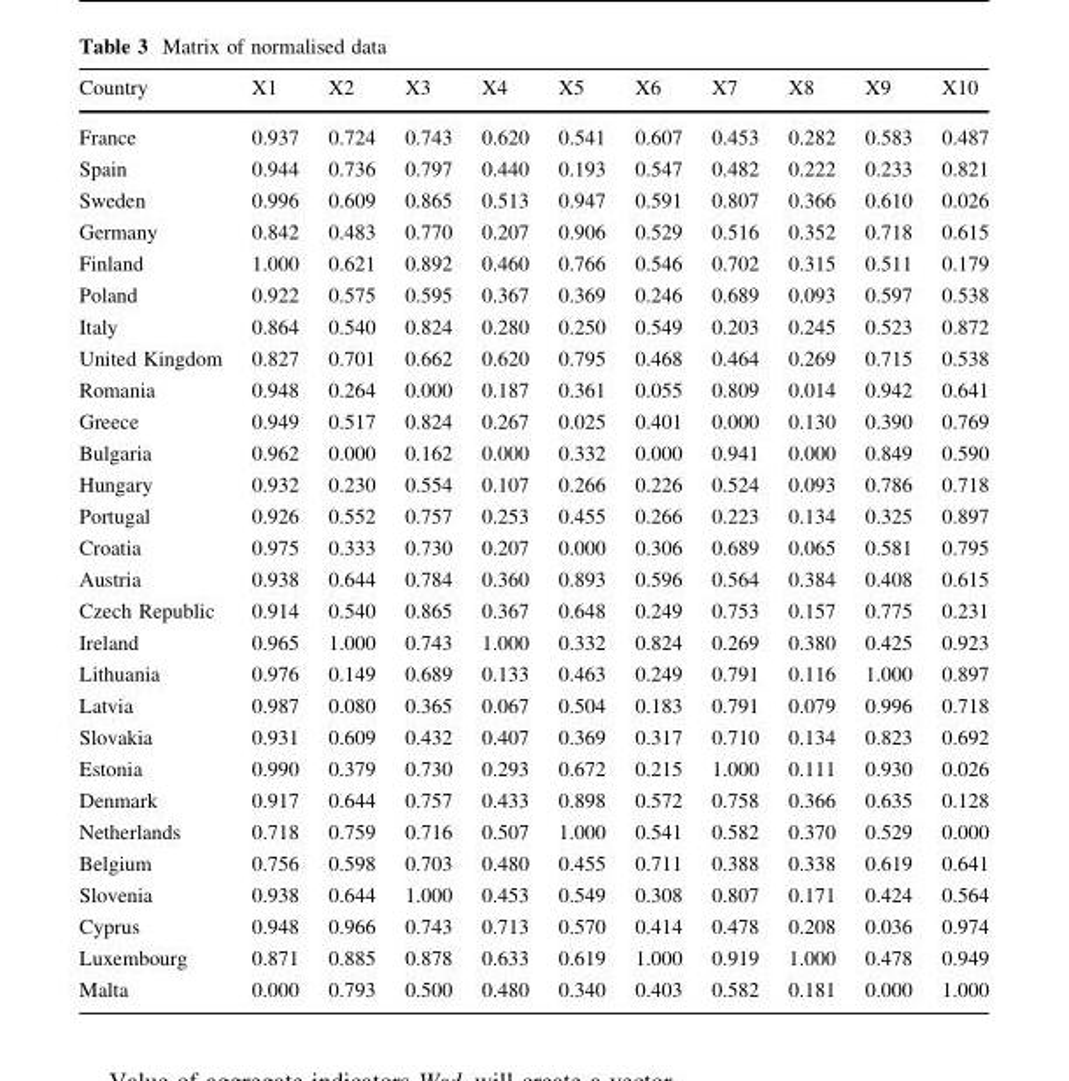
<table><thead><tr><td>Country</td><td>X1</td><td>X2</td><td>X3</td><td>X4</td><td>X5</td><td>X6</td><td>X7</td><td>X8</td><td>X9</td><td>X10</td></tr></thead><tbody><tr><td>France</td><td>0.937</td><td>0.724</td><td>0.743</td><td>0.620</td><td>0.541</td><td>0.607</td><td>0.453</td><td>0.282</td><td>0.583</td><td>0.487</td></tr><tr><td>Spain</td><td>0.944</td><td>0.736</td><td>0.797</td><td>0.440</td><td>0.193</td><td>0.547</td><td>0.482</td><td>0.222</td><td>0.233</td><td>0.821</td></tr><tr><td>Sweden</td><td>0.996</td><td>0.609</td><td>0.865</td><td>0.513</td><td>0.947</td><td>0.591</td><td>0.807</td><td>0.366</td><td>0.610</td><td>0.026</td></tr><tr><td>Germany</td><td>0.842</td><td>0.483</td><td>0.770</td><td>0.207</td><td>0.906</td><td>0.529</td><td>0.516</td><td>0.352</td><td>0.718</td><td>0.615</td></tr><tr><td>Finland</td><td>1.000</td><td>0.621</td><td>0.892</td><td>0.460</td><td>0.766</td><td>0.546</td><td>0.702</td><td>0.315</td><td>0.511</td><td>0.179</td></tr><tr><td>Poland</td><td>0.922</td><td>0.575</td><td>0.595</td><td>0.367</td><td>0.369</td><td>0.246</td><td>0.689</td><td>0.093</td><td>0.597</td><td>0.538</td></tr><tr><td>Italy</td><td>0.864</td><td>0.540</td><td>0.824</td><td>0.280</td><td>0.250</td><td>0.549</td><td>0.203</td><td>0.245</td><td>0.523</td><td>0.872</td></tr><tr><td>United Kingdom</td><td>0.827</td><td>0.701</td><td>0.662</td><td>0.620</td><td>0.795</td><td>0.468</td><td>0.464</td><td>0.269</td><td>0.715</td><td>0.538</td></tr><tr><td>Romania</td><td>0.948</td><td>0.264</td><td>0.000</td><td>0.187</td><td>0.361</td><td>0.055</td><td>0.809</td><td>0.014</td><td>0.942</td><td>0.641</td></tr><tr><td>Greece</td><td>0.949</td><td>0.517</td><td>0.824</td><td>0.267</td><td>0.025</td><td>0.401</td><td>0.000</td><td>0.130</td><td>0.390</td><td>0.769</td></tr><tr><td>Bulgaria</td><td>0.962</td><td>0.000</td><td>0.162</td><td>0.000</td><td>0.332</td><td>0.000</td><td>0.941</td><td>0.000</td><td>0.849</td><td>0.590</td></tr><tr><td>Hungary</td><td>0.932</td><td>0.230</td><td>0.554</td><td>0.107</td><td>0.266</td><td>0.226</td><td>0.524</td><td>0.093</td><td>0.786</td><td>0.718</td></tr><tr><td>Portugal</td><td>0.926</td><td>0.552</td><td>0.757</td><td>0.253</td><td>0.455</td><td>0.266</td><td>0.223</td><td>0.134</td><td>0.325</td><td>0.897</td></tr><tr><td>Croatia</td><td>0.975</td><td>0.333</td><td>0.730</td><td>0.207</td><td>0.000</td><td>0.306</td><td>0.689</td><td>0.065</td><td>0.581</td><td>0.795</td></tr><tr><td>Austria</td><td>0.938</td><td>0.644</td><td>0.784</td><td>0.360</td><td>0.893</td><td>0.596</td><td>0.564</td><td>0.384</td><td>0.408</td><td>0.615</td></tr><tr><td>Czech Republic</td><td>0.914</td><td>0.540</td><td>0.865</td><td>0.367</td><td>0.648</td><td>0.249</td><td>0.753</td><td>0.157</td><td>0.775</td><td>0.231</td></tr><tr><td>Ireland</td><td>0.965</td><td>1.000</td><td>0.743</td><td>1.000</td><td>0.332</td><td>0.824</td><td>0.269</td><td>0.380</td><td>0.425</td><td>0.923</td></tr><tr><td>Lithuania</td><td>0.976</td><td>0.149</td><td>0.689</td><td>0.133</td><td>0.463</td><td>0.249</td><td>0.791</td><td>0.116</td><td>1.000</td><td>0.897</td></tr><tr><td>Latvia</td><td>0.987</td><td>0.080</td><td>0.365</td><td>0.067</td><td>0.504</td><td>0.183</td><td>0.791</td><td>0.079</td><td>0.996</td><td>0.718</td></tr><tr><td>Slovakia</td><td>0.931</td><td>0.609</td><td>0.432</td><td>0.407</td><td>0.369</td><td>0.317</td><td>0.710</td><td>0.134</td><td>0.823</td><td>0.692</td></tr><tr><td>Estonia</td><td>0.990</td><td>0.379</td><td>0.730</td><td>0.293</td><td>0.672</td><td>0.215</td><td>1.000</td><td>0.111</td><td>0.930</td><td>0.026</td></tr><tr><td>Denmark</td><td>0.917</td><td>0.644</td><td>0.757</td><td>0.433</td><td>0.898</td><td>0.572</td><td>0.758</td><td>0.366</td><td>0.635</td><td>0.128</td></tr><tr><td>Netherlands</td><td>0.718</td><td>0.759</td><td>0.716</td><td>0.507</td><td>1.000</td><td>0.541</td><td>0.582</td><td>0.370</td><td>0.529</td><td>0.000</td></tr><tr><td>Belgium</td><td>0.756</td><td>0.598</td><td>0.703</td><td>0.480</td><td>0.455</td><td>0.711</td><td>0.388</td><td>0.338</td><td>0.619</td><td>0.641</td></tr><tr><td>Slovenia</td><td>0.938</td><td>0.644</td><td>1.000</td><td>0.453</td><td>0.549</td><td>0.308</td><td>0.807</td><td>0.171</td><td>0.424</td><td>0.564</td></tr><tr><td>Cyprus</td><td>0.948</td><td>0.966</td><td>0.743</td><td>0.713</td><td>0.570</td><td>0.414</td><td>0.478</td><td>0.208</td><td>0.036</td><td>0.974</td></tr><tr><td>Luxembourg</td><td>0.871</td><td>0.885</td><td>0.878</td><td>0.633</td><td>0.619</td><td>1.000</td><td>0.919</td><td>1.000</td><td>0.478</td><td>0.949</td></tr><tr><td>Malta</td><td>0.000</td><td>0.793</td><td>0.500</td><td>0.480</td><td>0.340</td><td>0.403</td><td>0.582</td><td>0.181</td><td>0.000</td><td>1.000</td></tr></tbody></table>